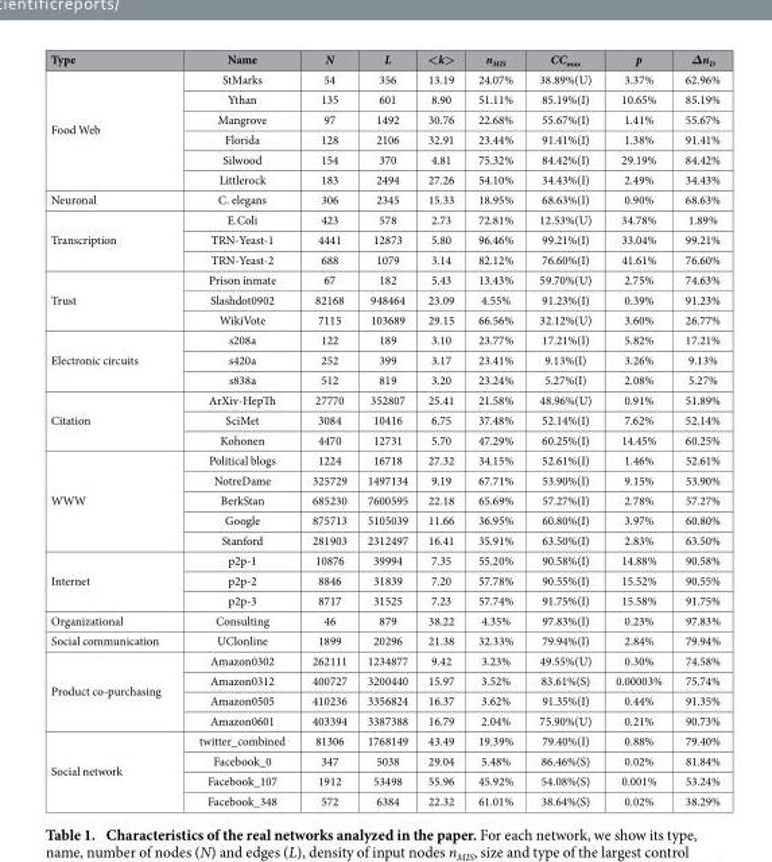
<table><thead><tr><td>Type</td><td>Name</td><td>N</td><td>L</td><td>&lt;k&gt;</td><td>n<sub>MIS</sub></td><td>CC<sub>max</sub></td><td>p</td><td>Δn<sub>D</sub></td></tr></thead><tbody><tr><td rowspan="6">Food Web</td><td>StMarks</td><td>54</td><td>356</td><td>13.19</td><td>24.07%</td><td>38.89%(U)</td><td>3.37%</td><td>62.96%</td></tr><tr><td>Ythan</td><td>135</td><td>601</td><td>8.90</td><td>51.11%</td><td>85.19%(I)</td><td>10.65%</td><td>85.19%</td></tr><tr><td>Mangrove</td><td>97</td><td>1492</td><td>30.76</td><td>22.68%</td><td>55.67%(I)</td><td>1.41%</td><td>55.67%</td></tr><tr><td>Florida</td><td>128</td><td>2106</td><td>32.91</td><td>23.44%</td><td>91.41%(I)</td><td>1.38%</td><td>91.41%</td></tr><tr><td>Silwood</td><td>154</td><td>370</td><td>4.81</td><td>75.32%</td><td>84.42%(I)</td><td>29.19%</td><td>84.42%</td></tr><tr><td>Littlerock</td><td>183</td><td>2494</td><td>27.26</td><td>54.10%</td><td>34.43%(I)</td><td>2.49%</td><td>34.43%</td></tr><tr><td>Neuronal</td><td>C. elegans</td><td>306</td><td>2345</td><td>15.33</td><td>18.95%</td><td>68.63%(I)</td><td>0.90%</td><td>68.63%</td></tr><tr><td rowspan="3">Transcription</td><td>E.Coli</td><td>423</td><td>578</td><td>2.73</td><td>72.81%</td><td>12.53%(U)</td><td>34.78%</td><td>1.89%</td></tr><tr><td>TRN-Yeast-1</td><td>4441</td><td>12873</td><td>5.80</td><td>96.46%</td><td>99.21%(I)</td><td>33.04%</td><td>99.21%</td></tr><tr><td>TRN-Yeast-2</td><td>688</td><td>1079</td><td>3.14</td><td>82.12%</td><td>76.60%(I)</td><td>41.61%</td><td>76.60%</td></tr><tr><td rowspan="3">Trust</td><td>Prison inmate</td><td>67</td><td>182</td><td>5.43</td><td>13.43%</td><td>59.70%(U)</td><td>2.75%</td><td>74.63%</td></tr><tr><td>Slashdot0902</td><td>82168</td><td>948464</td><td>23.09</td><td>4.55%</td><td>91.23%(I)</td><td>0.39%</td><td>91.23%</td></tr><tr><td>WikiVote</td><td>7115</td><td>103689</td><td>29.15</td><td>66.56%</td><td>32.12%(U)</td><td>3.60%</td><td>26.77%</td></tr><tr><td rowspan="3">Electronic circuits</td><td>s208a</td><td>122</td><td>189</td><td>3.10</td><td>23.77%</td><td>17.21%(I)</td><td>5.82%</td><td>17.21%</td></tr><tr><td>s420a</td><td>252</td><td>399</td><td>3.17</td><td>23.41%</td><td>9.13%(I)</td><td>3.26%</td><td>9.13%</td></tr><tr><td>s838a</td><td>512</td><td>819</td><td>3.20</td><td>23.24%</td><td>5.27%(I)</td><td>2.08%</td><td>5.27%</td></tr><tr><td rowspan="3">Citation</td><td>ArXiv-HepTh</td><td>27770</td><td>352807</td><td>25.41</td><td>21.58%</td><td>48.96%(U)</td><td>0.91%</td><td>51.89%</td></tr><tr><td>SciMet</td><td>3084</td><td>10416</td><td>6.75</td><td>37.48%</td><td>52.14%(I)</td><td>7.62%</td><td>52.14%</td></tr><tr><td>Kohonen</td><td>4470</td><td>12731</td><td>5.70</td><td>47.29%</td><td>60.25%(I)</td><td>14.45%</td><td>60.25%</td></tr><tr><td rowspan="5">WWW</td><td>Political blogs</td><td>1224</td><td>16718</td><td>27.32</td><td>34.15%</td><td>52.61%(I)</td><td>1.46%</td><td>52.61%</td></tr><tr><td>NotreDame</td><td>325729</td><td>1497134</td><td>9.19</td><td>67.71%</td><td>53.90%(I)</td><td>9.15%</td><td>53.90%</td></tr><tr><td>BerkStan</td><td>685230</td><td>7600595</td><td>22.18</td><td>65.69%</td><td>57.27%(I)</td><td>2.78%</td><td>57.27%</td></tr><tr><td>Google</td><td>875713</td><td>5105039</td><td>11.66</td><td>36.95%</td><td>60.80%(I)</td><td>3.97%</td><td>60.80%</td></tr><tr><td>Stanford</td><td>281903</td><td>2312497</td><td>16.41</td><td>35.91%</td><td>63.50%(I)</td><td>2.83%</td><td>63.50%</td></tr><tr><td rowspan="3">Internet</td><td>p2p-1</td><td>10876</td><td>39994</td><td>7.35</td><td>55.20%</td><td>90.58%(I)</td><td>14.88%</td><td>90.58%</td></tr><tr><td>p2p-2</td><td>8846</td><td>31839</td><td>7.20</td><td>57.78%</td><td>90.55%(I)</td><td>15.52%</td><td>90.55%</td></tr><tr><td>p2p-3</td><td>8717</td><td>31525</td><td>7.23</td><td>57.74%</td><td>91.75%(I)</td><td>15.58%</td><td>91.75%</td></tr><tr><td>Organizational</td><td>Consulting</td><td>46</td><td>879</td><td>38.22</td><td>4.35%</td><td>97.83%(I)</td><td>0.23%</td><td>97.83%</td></tr><tr><td>Social communication</td><td>UClonline</td><td>1899</td><td>20296</td><td>21.38</td><td>32.33%</td><td>79.94%(I)</td><td>2.84%</td><td>79.94%</td></tr><tr><td rowspan="4">Product co-purchasing</td><td>Amazon0302</td><td>262111</td><td>1234877</td><td>9.42</td><td>3.23%</td><td>49.55%(U)</td><td>0.30%</td><td>74.58%</td></tr><tr><td>Amazon0312</td><td>400727</td><td>3200440</td><td>15.97</td><td>3.52%</td><td>83.61%(S)</td><td>0.00003%</td><td>75.74%</td></tr><tr><td>Amazon0505</td><td>410236</td><td>3356824</td><td>16.37</td><td>3.62%</td><td>91.35%(I)</td><td>0.44%</td><td>91.35%</td></tr><tr><td>Amazon0601</td><td>403394</td><td>3387388</td><td>16.79</td><td>2.04%</td><td>75.90%(U)</td><td>0.21%</td><td>90.73%</td></tr><tr><td rowspan="4">Social network</td><td>twitter_combined</td><td>81306</td><td>1768149</td><td>43.49</td><td>19.39%</td><td>79.40%(I)</td><td>0.88%</td><td>79.40%</td></tr><tr><td>Facebook_0</td><td>347</td><td>5038</td><td>29.04</td><td>5.48%</td><td>86.46%(S)</td><td>0.02%</td><td>81.84%</td></tr><tr><td>Facebook_107</td><td>1912</td><td>53498</td><td>55.96</td><td>45.92%</td><td>54.08%(S)</td><td>0.001%</td><td>53.24%</td></tr><tr><td>Facebook_348</td><td>572</td><td>6384</td><td>22.32</td><td>61.01%</td><td>38.64%(S)</td><td>0.02%</td><td>38.29%</td></tr></tbody></table>